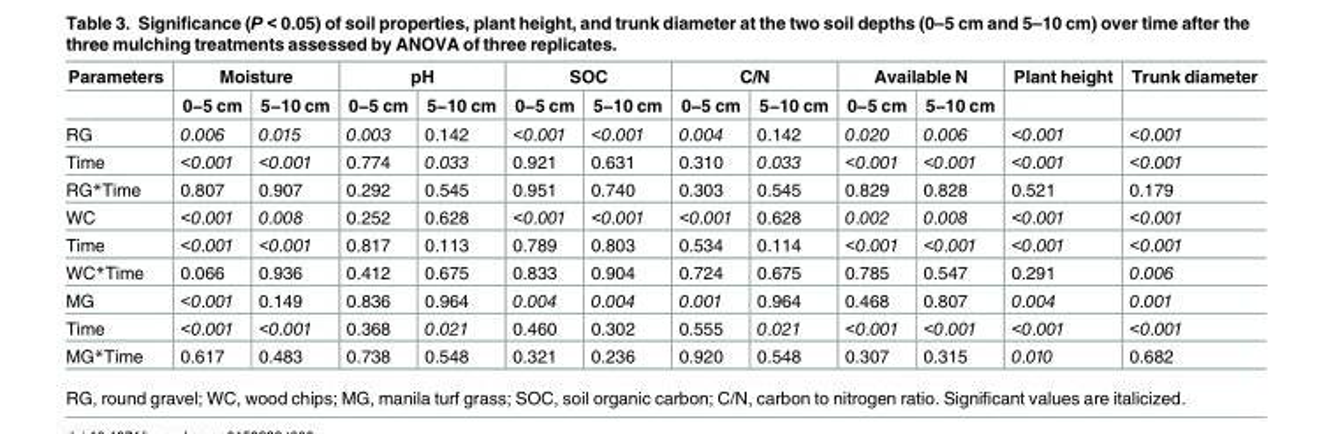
<table><thead><tr><td rowspan="2">Parameters</td><td colspan="2">Moisture</td><td colspan="2">pH</td><td colspan="2">SOC</td><td colspan="2">C/N</td><td colspan="2">Available N</td><td rowspan="2">Plant height</td><td rowspan="2">Trunk diameter</td></tr><tr><td>0−5 cm</td><td>5−10 cm</td><td>0−5 cm</td><td>5−10 cm</td><td>0−5 cm</td><td>5−10 cm</td><td>0−5 cm</td><td>5−10 cm</td><td>0−5 cm</td><td>5−10 cm</td></tr></thead><tbody><tr><td>RG</td><td>0.006</td><td>0.015</td><td>0.003</td><td>0.142</td><td>&lt;0.001</td><td>&lt;0.001</td><td>0.004</td><td>0.142</td><td>0.020</td><td>0.006</td><td>&lt;0.001</td><td>&lt;0.001</td></tr><tr><td>Time</td><td>&lt;0.001</td><td>&lt;0.001</td><td>0.774</td><td>0.033</td><td>0.921</td><td>0.631</td><td>0.310</td><td>0.033</td><td>&lt;0.001</td><td>&lt;0.001</td><td>&lt;0.001</td><td>&lt;0.001</td></tr><tr><td>RG*Time</td><td>0.807</td><td>0.907</td><td>0.292</td><td>0.545</td><td>0.951</td><td>0.740</td><td>0.303</td><td>0.545</td><td>0.829</td><td>0.828</td><td>0.521</td><td>0.179</td></tr><tr><td>WC</td><td>&lt;0.001</td><td>0.008</td><td>0.252</td><td>0.628</td><td>&lt;0.001</td><td>&lt;0.001</td><td>&lt;0.001</td><td>0.628</td><td>0.002</td><td>0.008</td><td>&lt;0.001</td><td>&lt;0.001</td></tr><tr><td>Time</td><td>&lt;0.001</td><td>&lt;0.001</td><td>0.817</td><td>0.113</td><td>0.789</td><td>0.803</td><td>0.534</td><td>0.114</td><td>&lt;0.001</td><td>&lt;0.001</td><td>&lt;0.001</td><td>&lt;0.001</td></tr><tr><td>WC*Time</td><td>0.066</td><td>0.936</td><td>0.412</td><td>0.675</td><td>0.833</td><td>0.904</td><td>0.724</td><td>0.675</td><td>0.785</td><td>0.547</td><td>0.291</td><td>0.006</td></tr><tr><td>MG</td><td>&lt;0.001</td><td>0.149</td><td>0.836</td><td>0.964</td><td>0.004</td><td>0.004</td><td>0.001</td><td>0.964</td><td>0.468</td><td>0.807</td><td>0.004</td><td>0.001</td></tr><tr><td>Time</td><td>&lt;0.001</td><td>&lt;0.001</td><td>0.368</td><td>0.021</td><td>0.460</td><td>0.302</td><td>0.555</td><td>0.021</td><td>&lt;0.001</td><td>&lt;0.001</td><td>&lt;0.001</td><td>&lt;0.001</td></tr><tr><td>MG*Time</td><td>0.617</td><td>0.483</td><td>0.738</td><td>0.548</td><td>0.321</td><td>0.236</td><td>0.920</td><td>0.548</td><td>0.307</td><td>0.315</td><td>0.010</td><td>0.682</td></tr></tbody></table>